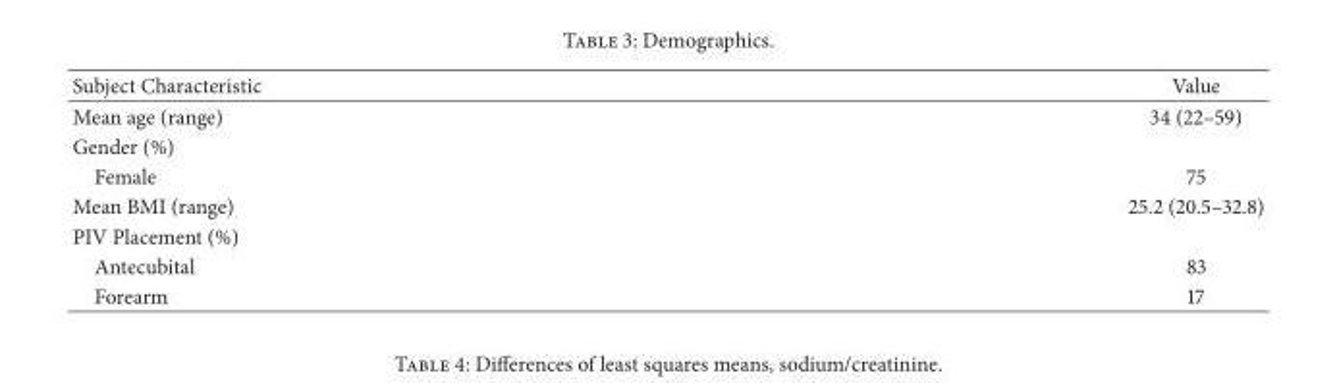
<table><thead><tr><td>Subject Characteristic</td><td>Value</td></tr></thead><tbody><tr><td>Mean age (range)</td><td>34 (22–59)</td></tr><tr><td colspan="2">Gender (%)</td></tr><tr><td>Female</td><td>75</td></tr><tr><td>Mean BMI (range)</td><td>25.2 (20.5–32.8)</td></tr><tr><td colspan="2">PIV Placement (%)</td></tr><tr><td>Antecubital</td><td>83</td></tr><tr><td>Forearm</td><td>17</td></tr></tbody></table>